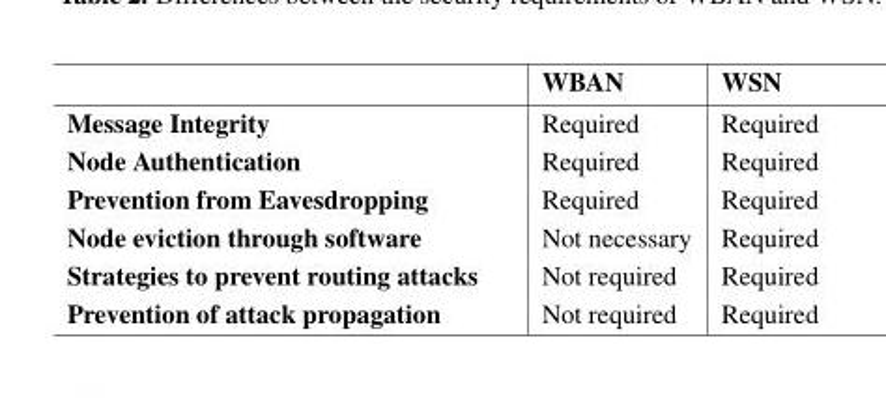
<table><thead><tr><td></td><td>WBAN</td><td>WSN</td></tr></thead><tbody><tr><td>Message Integrity</td><td>Required</td><td>Required</td></tr><tr><td>Node Authentication</td><td>Required</td><td>Required</td></tr><tr><td>Prevention from Eavesdropping</td><td>Required</td><td>Required</td></tr><tr><td>Node eviction through software</td><td>Not necessary</td><td>Required</td></tr><tr><td>Strategies to prevent routing attacks</td><td>Not required</td><td>Required</td></tr><tr><td>Prevention of attack propagation</td><td>Not required</td><td>Required</td></tr></tbody></table>